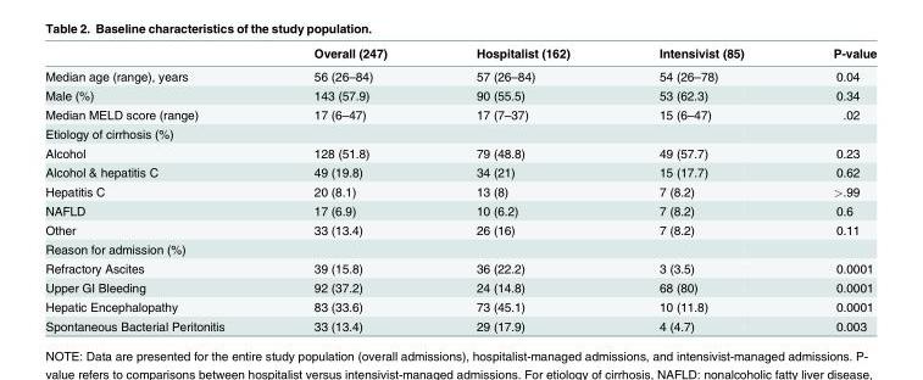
<table><thead><tr><td></td><td>Overall (247)</td><td>Hospitalist (162)</td><td>Intensivist (85)</td><td>P-value</td></tr></thead><tbody><tr><td>Median age (range), years</td><td>56 (26–84)</td><td>57 (26–84)</td><td>54 (26–78)</td><td>0.04</td></tr><tr><td>Male (%)</td><td>143 (57.9)</td><td>90 (55.5)</td><td>53 (62.3)</td><td>0.34</td></tr><tr><td>Median MELD score (range)</td><td>17 (6–47)</td><td>17 (7–37)</td><td>15 (6–47)</td><td>.02</td></tr><tr><td colspan="5">Etiology of cirrhosis (%)</td></tr><tr><td>Alcohol</td><td>128 (51.8)</td><td>79 (48.8)</td><td>49 (57.7)</td><td>0.23</td></tr><tr><td>Alcohol &amp; hepatitis C</td><td>49 (19.8)</td><td>34 (21)</td><td>15 (17.7)</td><td>0.62</td></tr><tr><td>Hepatitis C</td><td>20 (8.1)</td><td>13 (8)</td><td>7 (8.2)</td><td>&gt;.99</td></tr><tr><td>NAFLD</td><td>17 (6.9)</td><td>10 (6.2)</td><td>7 (8.2)</td><td>0.6</td></tr><tr><td>Other</td><td>33 (13.4)</td><td>26 (16)</td><td>7 (8.2)</td><td>0.11</td></tr><tr><td colspan="5">Reason for admission (%)</td></tr><tr><td>Refractory Ascites</td><td>39 (15.8)</td><td>36 (22.2)</td><td>3 (3.5)</td><td>0.0001</td></tr><tr><td>Upper GI Bleeding</td><td>92 (37.2)</td><td>24 (14.8)</td><td>68 (80)</td><td>0.0001</td></tr><tr><td>Hepatic Encephalopathy</td><td>83 (33.6)</td><td>73 (45.1)</td><td>10 (11.8)</td><td>0.0001</td></tr><tr><td>Spontaneous Bacterial Peritonitis</td><td>33 (13.4)</td><td>29 (17.9)</td><td>4 (4.7)</td><td>0.003</td></tr></tbody></table>